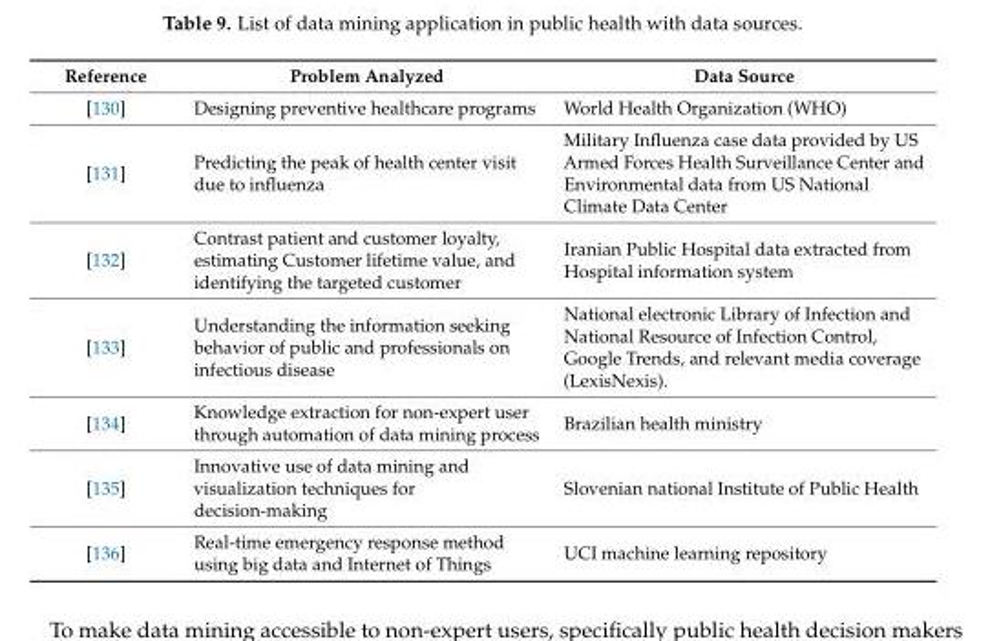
<table><thead><tr><td>Reference</td><td>Problem Analyzed</td><td>Data Source</td></tr></thead><tbody><tr><td>[130]</td><td>Designing preventive healthcare programs</td><td>World Health Organization (WHO)</td></tr><tr><td>[131]</td><td>Predicting the peak of health center visit due to influenza</td><td>Military Influenza case data provided by US Armed Forces Health Surveillance Center and Environmental data from US National Climate Data Center</td></tr><tr><td>[132]</td><td>Contrast patient and customer loyalty, estimating Customer lifetime value, and identifying the targeted customer</td><td>Iranian Public Hospital data extracted from Hospital information system</td></tr><tr><td>[133]</td><td>Understanding the information seeking behavior of public and professionals on infectious disease</td><td>National electronic Library of Infection and National Resource of Infection Control, Google Trends, and relevant media coverage (LexisNexis).</td></tr><tr><td>[134]</td><td>Knowledge extraction for non-expert user through automation of data mining process</td><td>Brazilian health ministry</td></tr><tr><td>[135]</td><td>Innovative use of data mining and visualization techniques for decision-making</td><td>Slovenian national Institute of Public Health</td></tr><tr><td>[136]</td><td>Real-time emergency response method using big data and Internet of Things</td><td>UCI machine learning repository</td></tr></tbody></table>